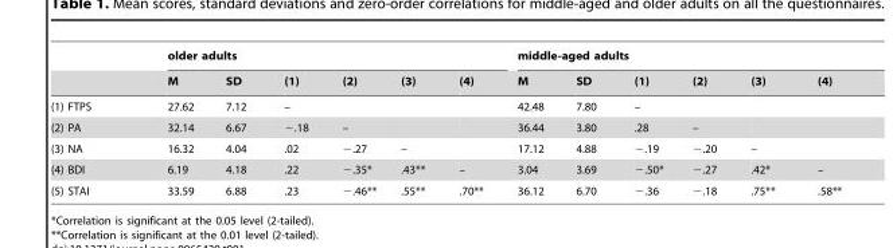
<table><thead><tr><td rowspan="2"></td><td colspan="6">older adults</td><td colspan="6">middle-aged adults</td></tr><tr><td>M</td><td>SD</td><td>(1)</td><td>(2)</td><td>(3)</td><td>(4)</td><td>M</td><td>SD</td><td>(1)</td><td>(2)</td><td>(3)</td><td>(4)</td></tr></thead><tbody><tr><td>(1) FTPS</td><td>27.62</td><td>7.12</td><td>–</td><td></td><td></td><td></td><td>42.48</td><td>7.80</td><td>–</td><td></td><td></td><td></td></tr><tr><td>(2) PA</td><td>32.14</td><td>6.67</td><td>−.18</td><td>–</td><td></td><td></td><td>36.44</td><td>3.80</td><td>.28</td><td>–</td><td></td><td></td></tr><tr><td>(3) NA</td><td>16.32</td><td>4.04</td><td>.02</td><td>−.27</td><td>–</td><td></td><td>17.12</td><td>4.88</td><td>−.19</td><td>−.20</td><td>–</td><td></td></tr><tr><td>(4) BDI</td><td>6.19</td><td>4.18</td><td>.22</td><td>−.35*</td><td>.43**</td><td>–</td><td>3.04</td><td>3.69</td><td>−.50*</td><td>−.27</td><td>.42*</td><td>–</td></tr><tr><td>(5) STAI</td><td>33.59</td><td>6.88</td><td>.23</td><td>−.46**</td><td>.55**</td><td>.70**</td><td>36.12</td><td>6.70</td><td>−.36</td><td>−.18</td><td>.75**</td><td>.58**</td></tr></tbody></table>